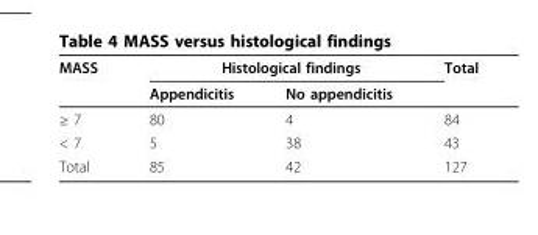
<table><thead><tr><td rowspan="2">MASS</td><td colspan="2">Histological findings</td><td rowspan="2">Total</td></tr><tr><td>Appendicitis</td><td>No appendicitis</td></tr></thead><tbody><tr><td>≥ 7</td><td>80</td><td>4</td><td>84</td></tr><tr><td>&lt; 7</td><td>5</td><td>38</td><td>43</td></tr><tr><td>Total</td><td>85</td><td>42</td><td>127</td></tr></tbody></table>